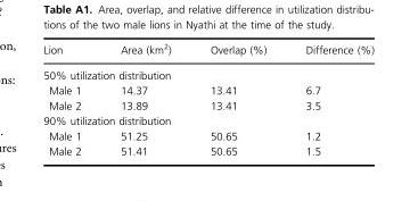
<table><thead><tr><td>Lion</td><td>Area (km<sup>2</sup>)</td><td>Overlap (%)</td><td>Difference (%)</td></tr></thead><tbody><tr><td colspan="4">50% utilization distribution</td></tr><tr><td>Male 1</td><td>14.37</td><td>13.41</td><td>6.7</td></tr><tr><td>Male 2</td><td>13.89</td><td>13.41</td><td>3.5</td></tr><tr><td colspan="4">90% utilization distribution</td></tr><tr><td>Male 1</td><td>51.25</td><td>50.65</td><td>1.2</td></tr><tr><td>Male 2</td><td>51.41</td><td>50.65</td><td>1.5</td></tr></tbody></table>